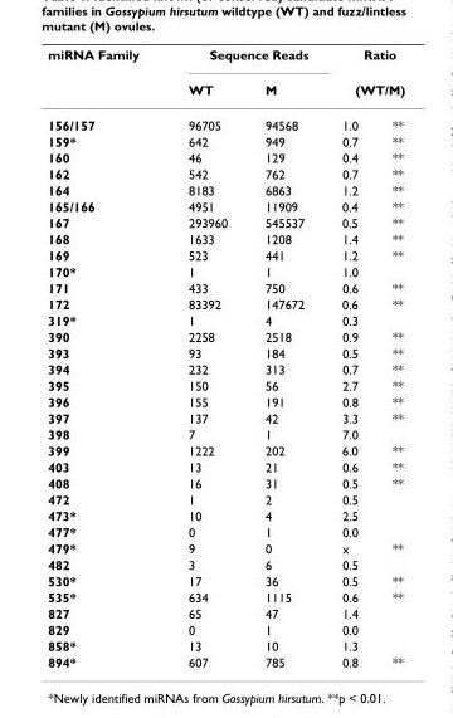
<table><thead><tr><td rowspan="3">miRNA Family 156/157</td><td colspan="2">Sequence Reads</td><td rowspan="2" colspan="2">Ratio (WT/M)</td></tr><tr><td rowspan="2">WT 96705</td><td rowspan="2">M 94568</td></tr><tr><td>1.0</td><td>**</td></tr></thead><tbody><tr><td>159*</td><td>642</td><td>949</td><td>0.7</td><td>**</td></tr><tr><td>160</td><td>46</td><td>129</td><td>0.4</td><td>**</td></tr><tr><td>162</td><td>542</td><td>762</td><td>0.7</td><td>**</td></tr><tr><td>164</td><td>8183</td><td>6863</td><td>1.2</td><td>**</td></tr><tr><td>165/166</td><td>4951</td><td>11909</td><td>0.4</td><td>**</td></tr><tr><td>167</td><td>293960</td><td>545537</td><td>0.5</td><td>**</td></tr><tr><td>168</td><td>1633</td><td>1208</td><td>1.4</td><td>**</td></tr><tr><td>169</td><td>523</td><td>441</td><td>1.2</td><td>**</td></tr><tr><td>170*</td><td>1</td><td>1</td><td>1.0</td><td></td></tr><tr><td>171</td><td>433</td><td>750</td><td>0.6</td><td>**</td></tr><tr><td>172</td><td>83392</td><td>147672</td><td>0.6</td><td>**</td></tr><tr><td>319*</td><td>1</td><td>4</td><td>0.3</td><td></td></tr><tr><td>390</td><td>2258</td><td>2518</td><td>0.9</td><td>**</td></tr><tr><td>393</td><td>93</td><td>184</td><td>0.5</td><td>**</td></tr><tr><td>394</td><td>232</td><td>313</td><td>0.7</td><td>**</td></tr><tr><td>395</td><td>150</td><td>56</td><td>2.7</td><td>**</td></tr><tr><td>396</td><td>155</td><td>191</td><td>0.8</td><td>**</td></tr><tr><td>397</td><td>137</td><td>42</td><td>3.3</td><td>**</td></tr><tr><td>398</td><td>7</td><td>1</td><td>7.0</td><td></td></tr><tr><td>399</td><td>1222</td><td>202</td><td>6.0</td><td>**</td></tr><tr><td>403</td><td>13</td><td>21</td><td>0.6</td><td>**</td></tr><tr><td>408</td><td>16</td><td>31</td><td>0.5</td><td>**</td></tr><tr><td>472</td><td>1</td><td>2</td><td>0.5</td><td></td></tr><tr><td>473*</td><td>10</td><td>4</td><td>2.5</td><td></td></tr><tr><td>477*</td><td>0</td><td>1</td><td>0.0</td><td></td></tr><tr><td>479*</td><td>9</td><td>0</td><td>x</td><td>**</td></tr><tr><td>482</td><td>3</td><td>6</td><td>0.5</td><td></td></tr><tr><td>530*</td><td>17</td><td>36</td><td>0.5</td><td>**</td></tr><tr><td>535*</td><td>634</td><td>1115</td><td>0.6</td><td>**</td></tr><tr><td>827</td><td>65</td><td>47</td><td>1.4</td><td></td></tr><tr><td>829</td><td>0</td><td>1</td><td>0.0</td><td></td></tr><tr><td>858*</td><td>13</td><td>10</td><td>1.3</td><td></td></tr><tr><td>894*</td><td>607</td><td>785</td><td>0.8</td><td>**</td></tr></tbody></table>